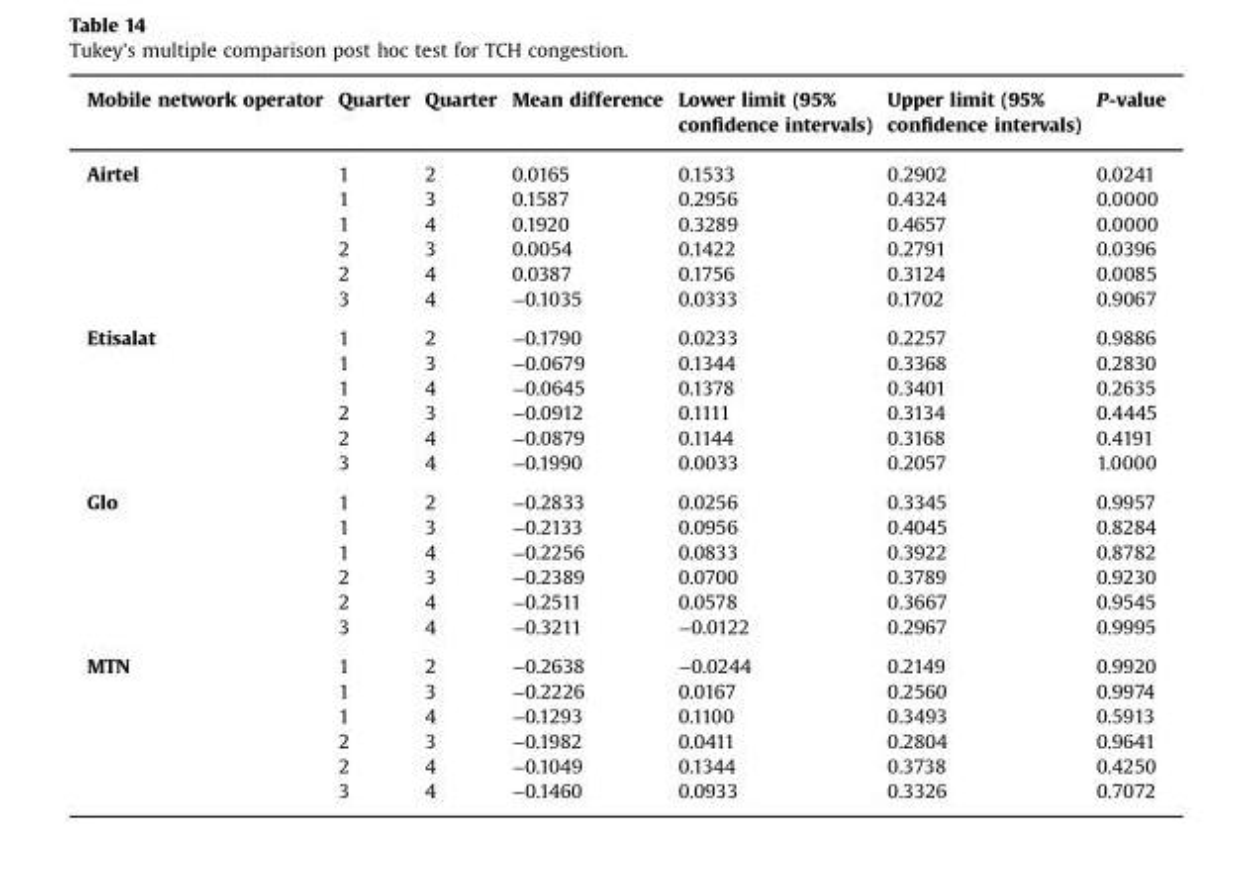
<table><thead><tr><td>Mobile network operator</td><td>Quarter</td><td>Quarter</td><td>Mean difference</td><td>Lower limit (95% confidence intervals)</td><td>Upper limit (95% confidence intervals)</td><td>P-value</td></tr></thead><tbody><tr><td rowspan="6">Airtel</td><td>1</td><td>2</td><td>0.0165</td><td>0.1533</td><td>0.2902</td><td>0.0241</td></tr><tr><td>1</td><td>3</td><td>0.1587</td><td>0.2956</td><td>0.4324</td><td>0.0000</td></tr><tr><td>1</td><td>4</td><td>0.1920</td><td>0.3289</td><td>0.4657</td><td>0.0000</td></tr><tr><td>2</td><td>3</td><td>0.0054</td><td>0.1422</td><td>0.2791</td><td>0.0396</td></tr><tr><td>2</td><td>4</td><td>0.0387</td><td>0.1756</td><td>0.3124</td><td>0.0085</td></tr><tr><td>3</td><td>4</td><td>−0.1035</td><td>0.0333</td><td>0.1702</td><td>0.9067</td></tr><tr><td rowspan="6">Etisalat</td><td>1</td><td>2</td><td>−0.1790</td><td>0.0233</td><td>0.2257</td><td>0.9886</td></tr><tr><td>1</td><td>3</td><td>−0.0679</td><td>0.1344</td><td>0.3368</td><td>0.2830</td></tr><tr><td>1</td><td>4</td><td>−0.0645</td><td>0.1378</td><td>0.3401</td><td>0.2635</td></tr><tr><td>2</td><td>3</td><td>−0.0912</td><td>0.1111</td><td>0.3134</td><td>0.4445</td></tr><tr><td>2</td><td>4</td><td>−0.0879</td><td>0.1144</td><td>0.3168</td><td>0.4191</td></tr><tr><td>3</td><td>4</td><td>−0.1990</td><td>0.0033</td><td>0.2057</td><td>1.0000</td></tr><tr><td rowspan="6">Glo</td><td>1</td><td>2</td><td>−0.2833</td><td>0.0256</td><td>0.3345</td><td>0.9957</td></tr><tr><td>1</td><td>3</td><td>−0.2133</td><td>0.0956</td><td>0.4045</td><td>0.8284</td></tr><tr><td>1</td><td>4</td><td>−0.2256</td><td>0.0833</td><td>0.3922</td><td>0.8782</td></tr><tr><td>2</td><td>3</td><td>−0.2389</td><td>0.0700</td><td>0.3789</td><td>0.9230</td></tr><tr><td>2</td><td>4</td><td>−0.2511</td><td>0.0578</td><td>0.3667</td><td>0.9545</td></tr><tr><td>3</td><td>4</td><td>−0.3211</td><td>−0.0122</td><td>0.2967</td><td>0.9995</td></tr><tr><td rowspan="6">MTN</td><td>1</td><td>2</td><td>−0.2638</td><td>−0.0244</td><td>0.2149</td><td>0.9920</td></tr><tr><td>1</td><td>3</td><td>−0.2226</td><td>0.0167</td><td>0.2560</td><td>0.9974</td></tr><tr><td>1</td><td>4</td><td>−0.1293</td><td>0.1100</td><td>0.3493</td><td>0.5913</td></tr><tr><td>2</td><td>3</td><td>−0.1982</td><td>0.0411</td><td>0.2804</td><td>0.9641</td></tr><tr><td>2</td><td>4</td><td>−0.1049</td><td>0.1344</td><td>0.3738</td><td>0.4250</td></tr><tr><td>3</td><td>4</td><td>−0.1460</td><td>0.0933</td><td>0.3326</td><td>0.7072</td></tr></tbody></table>